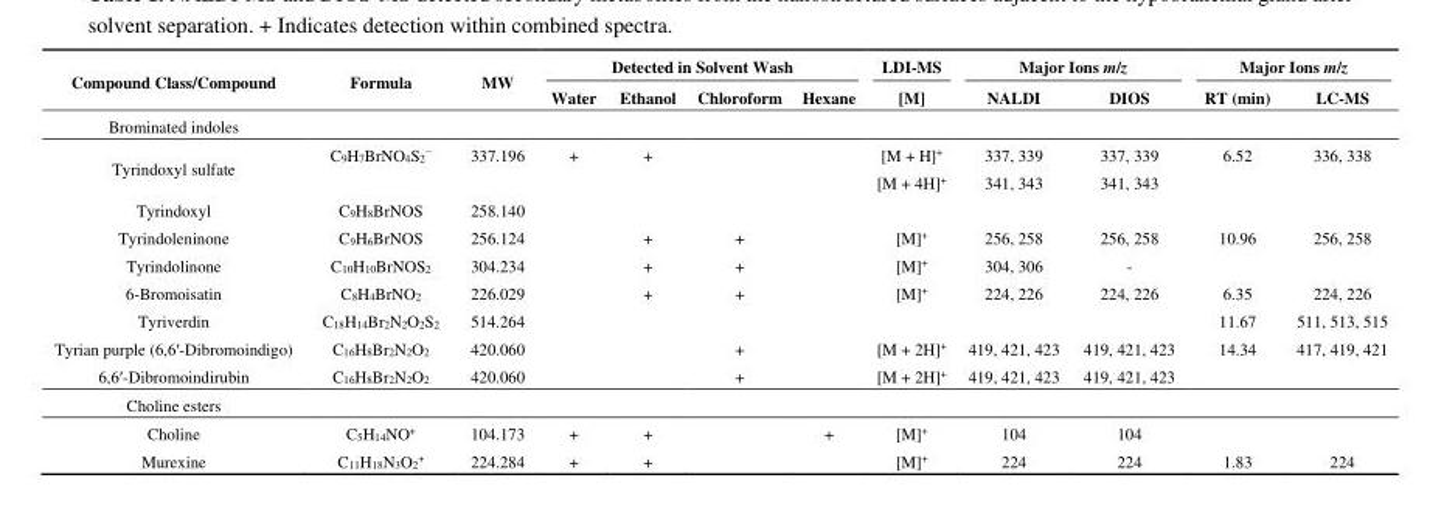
<table><thead><tr><td rowspan="2">Compound Class/Compound</td><td rowspan="2">Formula</td><td rowspan="2">MW</td><td colspan="4">Detected in Solvent Wash</td><td rowspan="2">LDI-MS [M]</td><td colspan="2">Major Ions m/z</td><td colspan="2">Major Ions m/z</td></tr><tr><td>Water</td><td>Ethanol</td><td>Chloroform</td><td>Hexane</td><td>NALDI</td><td>DIOS</td><td>RT (min)</td><td>LC-MS</td></tr></thead><tbody><tr><td colspan="12">Brominated indoles</td></tr><tr><td rowspan="2">Tyrindoxyl sulfate</td><td>C<sub>9</sub>H<sub>7</sub>BrNO<sub>4</sub>S<sub>2</sub><sup>−</sup></td><td>337.196</td><td>+</td><td>+</td><td></td><td></td><td>[M + H]<sup>+</sup></td><td>337, 339</td><td>337, 339</td><td>6.52</td><td>336, 338</td></tr><tr><td></td><td></td><td></td><td></td><td></td><td></td><td>[M + 4H]<sup>+</sup></td><td>341, 343</td><td>341, 343</td><td></td><td></td></tr><tr><td>Tyrindoxyl</td><td>C<sub>9</sub>H<sub>8</sub>BrNOS</td><td>258.140</td><td></td><td></td><td></td><td></td><td></td><td></td><td></td><td></td><td></td></tr><tr><td>Tyrindoleninone</td><td>C<sub>9</sub>H<sub>6</sub>BrNOS</td><td>256.124</td><td></td><td>+</td><td>+</td><td></td><td>[M]<sup>+</sup></td><td>256, 258</td><td>256, 258</td><td>10.96</td><td>256, 258</td></tr><tr><td>Tyrindolinone</td><td>C<sub>10</sub>H<sub>10</sub>BrNOS<sub>2</sub></td><td>304.234</td><td></td><td>+</td><td>+</td><td></td><td>[M]<sup>+</sup></td><td>304, 306</td><td>-</td><td></td><td></td></tr><tr><td>6-Bromoisatin</td><td>C<sub>8</sub>H<sub>4</sub>BrNO<sub>2</sub></td><td>226.029</td><td></td><td>+</td><td>+</td><td></td><td>[M]<sup>+</sup></td><td>224, 226</td><td>224, 226</td><td>6.35</td><td>224, 226</td></tr><tr><td>Tyriverdin</td><td>C<sub>18</sub>H<sub>14</sub>Br<sub>2</sub>N<sub>2</sub>O<sub>2</sub>S<sub>2</sub></td><td>514.264</td><td></td><td></td><td></td><td></td><td></td><td></td><td></td><td>11.67</td><td>511, 513, 515</td></tr><tr><td>Tyrian purple (6,6′-Dibromoindigo)</td><td>C<sub>16</sub>H<sub>8</sub>Br<sub>2</sub>N<sub>2</sub>O<sub>2</sub></td><td>420.060</td><td></td><td></td><td>+</td><td></td><td>[M + 2H]<sup>+</sup></td><td>419, 421, 423</td><td>419, 421, 423</td><td>14.34</td><td>417, 419, 421</td></tr><tr><td>6,6′-Dibromoindirubin</td><td>C<sub>16</sub>H<sub>8</sub>Br<sub>2</sub>N<sub>2</sub>O<sub>2</sub></td><td>420.060</td><td></td><td></td><td>+</td><td></td><td>[M + 2H]<sup>+</sup></td><td>419, 421, 423</td><td>419, 421, 423</td><td></td><td></td></tr><tr><td colspan="12">Choline esters</td></tr><tr><td>Choline</td><td>C<sub>5</sub>H<sub>14</sub>NO<sup>+</sup></td><td>104.173</td><td>+</td><td>+</td><td></td><td>+</td><td>[M]<sup>+</sup></td><td>104</td><td>104</td><td></td><td></td></tr><tr><td>Murexine</td><td>C<sub>11</sub>H<sub>18</sub>N<sub>3</sub>O<sub>2</sub><sup>+</sup></td><td>224.284</td><td>+</td><td>+</td><td></td><td></td><td>[M]<sup>+</sup></td><td>224</td><td>224</td><td>1.83</td><td>224</td></tr></tbody></table>